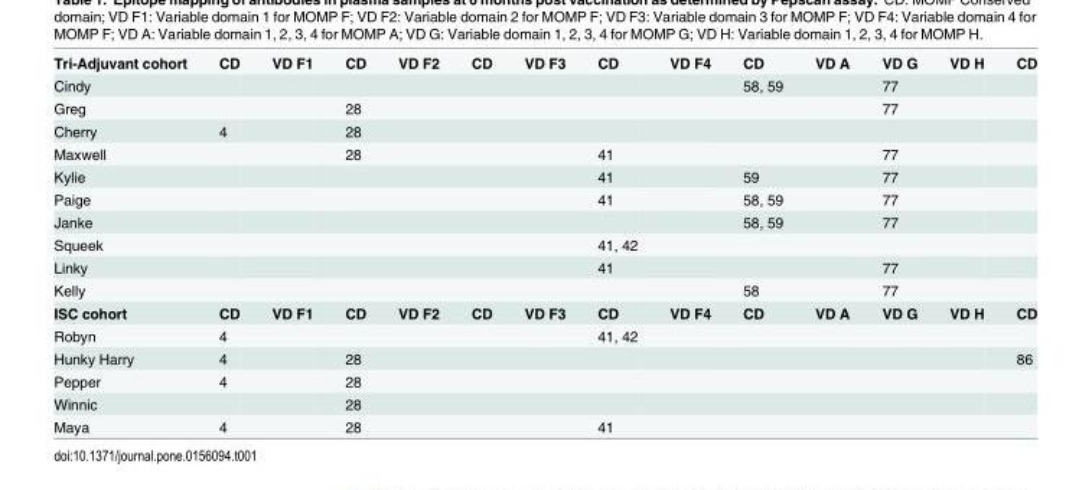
<table><tbody><tr><td>Tri-Adjuvant cohort</td><td>CD</td><td>VD F1</td><td>CD</td><td>VD F2</td><td>CD</td><td>VD F3</td><td>CD</td><td>VD F4</td><td>CD</td><td>VD A</td><td>VD G</td><td>VD H</td><td>CD</td></tr><tr><td>Cindy</td><td></td><td></td><td></td><td></td><td></td><td></td><td></td><td></td><td>58, 59</td><td></td><td>77</td><td></td><td></td></tr><tr><td>Greg</td><td></td><td></td><td>28</td><td></td><td></td><td></td><td></td><td></td><td></td><td></td><td>77</td><td></td><td></td></tr><tr><td>Cherry</td><td>4</td><td></td><td>28</td><td></td><td></td><td></td><td></td><td></td><td></td><td></td><td></td><td></td><td></td></tr><tr><td>Maxwell</td><td></td><td></td><td>28</td><td></td><td></td><td></td><td>41</td><td></td><td></td><td></td><td>77</td><td></td><td></td></tr><tr><td>Kylie</td><td></td><td></td><td></td><td></td><td></td><td></td><td>41</td><td></td><td>59</td><td></td><td>77</td><td></td><td></td></tr><tr><td>Paige</td><td></td><td></td><td></td><td></td><td></td><td></td><td>41</td><td></td><td>58, 59</td><td></td><td>77</td><td></td><td></td></tr><tr><td>Janke</td><td></td><td></td><td></td><td></td><td></td><td></td><td></td><td></td><td>58, 59</td><td></td><td>77</td><td></td><td></td></tr><tr><td>Squeek</td><td></td><td></td><td></td><td></td><td></td><td></td><td>41, 42</td><td></td><td></td><td></td><td></td><td></td><td></td></tr><tr><td>Linky</td><td></td><td></td><td></td><td></td><td></td><td></td><td>41</td><td></td><td></td><td></td><td>77</td><td></td><td></td></tr><tr><td>Kelly</td><td></td><td></td><td></td><td></td><td></td><td></td><td></td><td></td><td>58</td><td></td><td>77</td><td></td><td></td></tr><tr><td>ISC cohort</td><td>CD</td><td>VD F1</td><td>CD</td><td>VD F2</td><td>CD</td><td>VD F3</td><td>CD</td><td>VD F4</td><td>CD</td><td>VD A</td><td>VD G</td><td>VD H</td><td>CD</td></tr><tr><td>Robyn</td><td>4</td><td></td><td></td><td></td><td></td><td></td><td>41, 42</td><td></td><td></td><td></td><td></td><td></td><td></td></tr><tr><td>Hunky Harry</td><td>4</td><td></td><td>28</td><td></td><td></td><td></td><td></td><td></td><td></td><td></td><td></td><td></td><td>86</td></tr><tr><td>Pepper</td><td>4</td><td></td><td>28</td><td></td><td></td><td></td><td></td><td></td><td></td><td></td><td></td><td></td><td></td></tr><tr><td>Winnic</td><td></td><td></td><td>28</td><td></td><td></td><td></td><td></td><td></td><td></td><td></td><td></td><td></td><td></td></tr><tr><td>Maya</td><td>4</td><td></td><td>28</td><td></td><td></td><td></td><td>41</td><td></td><td></td><td></td><td></td><td></td><td></td></tr></tbody></table>